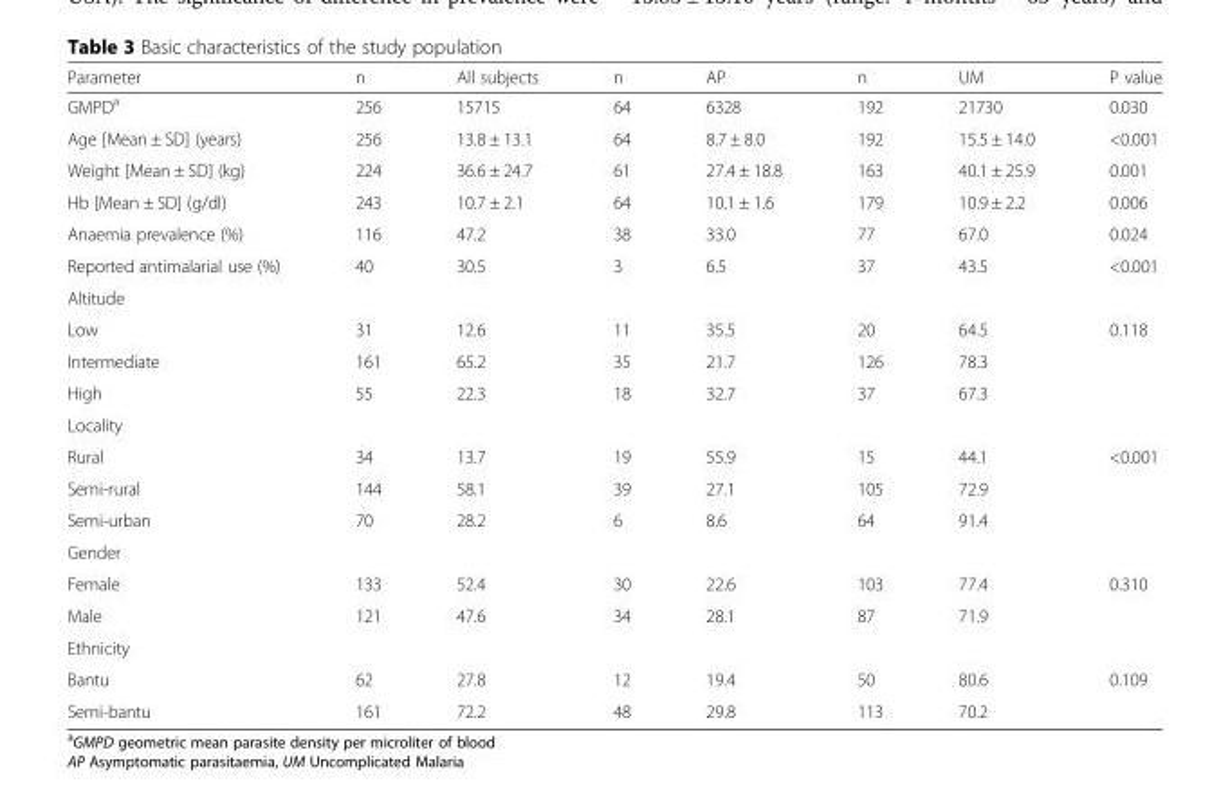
<table><thead><tr><td>Parameter</td><td>n</td><td>All subjects</td><td>n</td><td>AP</td><td>n</td><td>UM</td><td>P value</td></tr></thead><tbody><tr><td>GMPD<sup>a</sup></td><td>256</td><td>15715</td><td>64</td><td>6328</td><td>192</td><td>21730</td><td>0.030</td></tr><tr><td>Age [Mean ± SD] (years)</td><td>256</td><td>13.8 ± 13.1</td><td>64</td><td>8.7 ± 8.0</td><td>192</td><td>15.5 ± 14.0</td><td>&lt;0.001</td></tr><tr><td>Weight [Mean ± SD] (kg)</td><td>224</td><td>36.6 ± 24.7</td><td>61</td><td>27.4 ± 18.8</td><td>163</td><td>40.1 ± 25.9</td><td>0.001</td></tr><tr><td>Hb [Mean ± SD] (g/dl)</td><td>243</td><td>10.7 ± 2.1</td><td>64</td><td>10.1 ± 1.6</td><td>179</td><td>10.9 ± 2.2</td><td>0.006</td></tr><tr><td>Anaemia prevalence (%)</td><td>116</td><td>47.2</td><td>38</td><td>33.0</td><td>77</td><td>67.0</td><td>0.024</td></tr><tr><td>Reported antimalarial use (%)</td><td>40</td><td>30.5</td><td>3</td><td>6.5</td><td>37</td><td>43.5</td><td>&lt;0.001</td></tr><tr><td colspan="8">Altitude</td></tr><tr><td>Low</td><td>31</td><td>12.6</td><td>11</td><td>35.5</td><td>20</td><td>64.5</td><td rowspan="3">0.118</td></tr><tr><td>Intermediate</td><td>161</td><td>65.2</td><td>35</td><td>21.7</td><td>126</td><td>78.3</td></tr><tr><td>High</td><td>55</td><td>22.3</td><td>18</td><td>32.7</td><td>37</td><td>67.3</td></tr><tr><td colspan="8">Locality</td></tr><tr><td>Rural</td><td>34</td><td>13.7</td><td>19</td><td>55.9</td><td>15</td><td>44.1</td><td rowspan="3">&lt;0.001</td></tr><tr><td>Semi-rural</td><td>144</td><td>58.1</td><td>39</td><td>27.1</td><td>105</td><td>72.9</td></tr><tr><td>Semi-urban</td><td>70</td><td>28.2</td><td>6</td><td>8.6</td><td>64</td><td>91.4</td></tr><tr><td colspan="8">Gender</td></tr><tr><td>Female</td><td>133</td><td>52.4</td><td>30</td><td>22.6</td><td>103</td><td>77.4</td><td rowspan="2">0.310</td></tr><tr><td>Male</td><td>121</td><td>47.6</td><td>34</td><td>28.1</td><td>87</td><td>71.9</td></tr><tr><td colspan="8">Ethnicity</td></tr><tr><td>Bantu</td><td>62</td><td>27.8</td><td>12</td><td>19.4</td><td>50</td><td>80.6</td><td rowspan="2">0.109</td></tr><tr><td>Semi-bantu</td><td>161</td><td>72.2</td><td>48</td><td>29.8</td><td>113</td><td>70.2</td></tr></tbody></table>